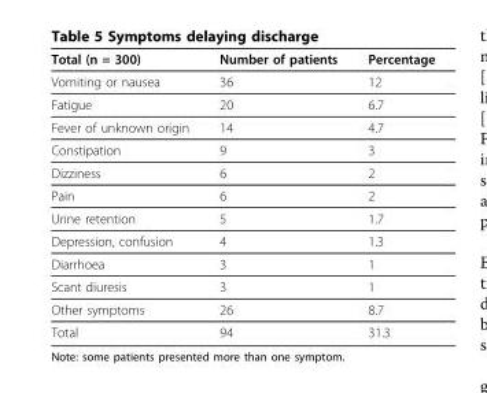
<table><thead><tr><td>Total (n = 300)</td><td>Number of patients</td><td>Percentage</td></tr></thead><tbody><tr><td>Vomiting or nausea</td><td>36</td><td>12</td></tr><tr><td>Fatigue</td><td>20</td><td>6.7</td></tr><tr><td>Fever of unknown origin</td><td>14</td><td>4.7</td></tr><tr><td>Constipation</td><td>9</td><td>3</td></tr><tr><td>Dizziness</td><td>6</td><td>2</td></tr><tr><td>Pain</td><td>6</td><td>2</td></tr><tr><td>Urine retention</td><td>5</td><td>1.7</td></tr><tr><td>Depression, confusion</td><td>4</td><td>1.3</td></tr><tr><td>Diarrhoea</td><td>3</td><td>1</td></tr><tr><td>Scant diuresis</td><td>3</td><td>1</td></tr><tr><td>Other symptoms</td><td>26</td><td>8.7</td></tr><tr><td>Total</td><td>94</td><td>31.3</td></tr></tbody></table>